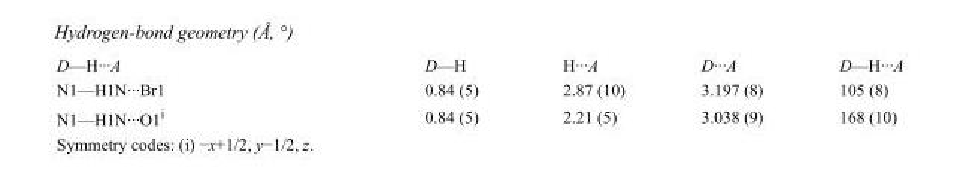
<table><tbody><tr><td>D—H···A</td><td>D—H</td><td>H···A</td><td>D···A</td><td>D—H···A</td></tr><tr><td>N1—H1N···Br1</td><td>0.84 (5)</td><td>2.87 (10)</td><td>3.197 (8)</td><td>105 (8)</td></tr><tr><td>N1—H1N···O1<sup>i</sup></td><td>0.84 (5)</td><td>2.21 (5)</td><td>3.038 (9)</td><td>168 (10)</td></tr></tbody></table>